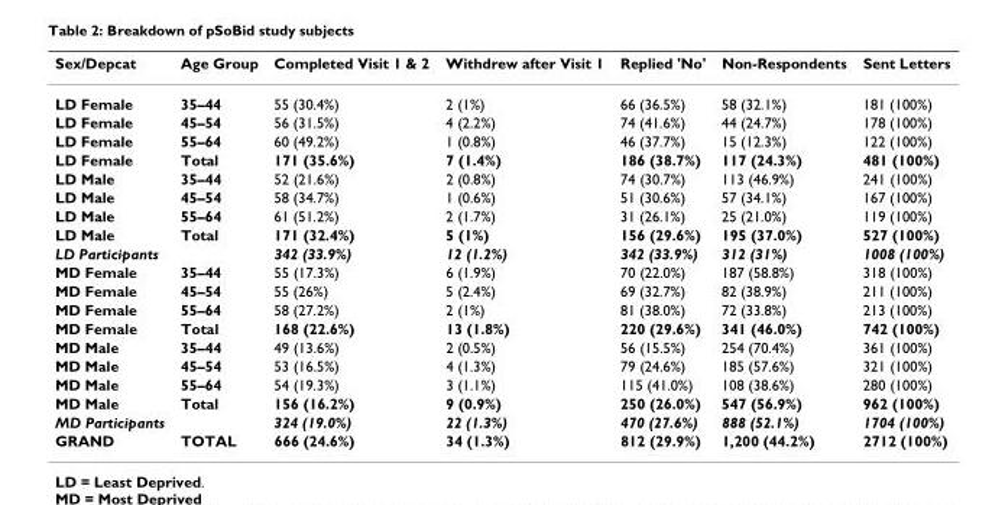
<table><thead><tr><td>Sex/Depcat</td><td>Age Group</td><td>Completed Visit 1 &amp; 2</td><td>Withdrew after Visit 1</td><td>Replied &#x27;No&#x27;</td><td>Non-Respondents</td><td>Sent Letters</td></tr></thead><tbody><tr><td>LD Female</td><td>35–44</td><td>55 (30.4%)</td><td>2 (1%)</td><td>66 (36.5%)</td><td>58 (32.1%)</td><td>181 (100%)</td></tr><tr><td>LD Female</td><td>45–54</td><td>56 (31.5%)</td><td>4 (2.2%)</td><td>74 (41.6%)</td><td>44 (24.7%)</td><td>178 (100%)</td></tr><tr><td>LD Female</td><td>55–64</td><td>60 (49.2%)</td><td>1 (0.8%)</td><td>46 (37.7%)</td><td>15 (12.3%)</td><td>122 (100%)</td></tr><tr><td>LD Female</td><td>Total</td><td>171 (35.6%)</td><td>7 (1.4%)</td><td>186 (38.7%)</td><td>117 (24.3%)</td><td>481 (100%)</td></tr><tr><td>LD Male</td><td>35–44</td><td>52 (21.6%)</td><td>2 (0.8%)</td><td>74 (30.7%)</td><td>113 (46.9%)</td><td>241 (100%)</td></tr><tr><td>LD Male</td><td>45–54</td><td>58 (34.7%)</td><td>1 (0.6%)</td><td>51 (30.6%)</td><td>57 (34.1%)</td><td>167 (100%)</td></tr><tr><td>LD Male</td><td>55–64</td><td>61 (51.2%)</td><td>2 (1.7%)</td><td>31 (26.1%)</td><td>25 (21.0%)</td><td>119 (100%)</td></tr><tr><td>LD Male</td><td>Total</td><td>171 (32.4%)</td><td>5 (1%)</td><td>156 (29.6%)</td><td>195 (37.0%)</td><td>527 (100%)</td></tr><tr><td>LD Participants</td><td></td><td>342 (33.9%)</td><td>12 (1.2%)</td><td>342 (33.9%)</td><td>312 (31%)</td><td>1008 (100%)</td></tr><tr><td>MD Female</td><td>35–44</td><td>55 (17.3%)</td><td>6 (1.9%)</td><td>70 (22.0%)</td><td>187 (58.8%)</td><td>318 (100%)</td></tr><tr><td>MD Female</td><td>45–54</td><td>55 (26%)</td><td>5 (2.4%)</td><td>69 (32.7%)</td><td>82 (38.9%)</td><td>211 (100%)</td></tr><tr><td>MD Female</td><td>55–64</td><td>58 (27.2%)</td><td>2 (1%)</td><td>81 (38.0%)</td><td>72 (33.8%)</td><td>213 (100%)</td></tr><tr><td>MD Female</td><td>Total</td><td>168 (22.6%)</td><td>13 (1.8%)</td><td>220 (29.6%)</td><td>341 (46.0%)</td><td>742 (100%)</td></tr><tr><td>MD Male</td><td>35–44</td><td>49 (13.6%)</td><td>2 (0.5%)</td><td>56 (15.5%)</td><td>254 (70.4%)</td><td>361 (100%)</td></tr><tr><td>MD Male</td><td>45–54</td><td>53 (16.5%)</td><td>4 (1.3%)</td><td>79 (24.6%)</td><td>185 (57.6%)</td><td>321 (100%)</td></tr><tr><td>MD Male</td><td>55–64</td><td>54 (19.3%)</td><td>3 (1.1%)</td><td>115 (41.0%)</td><td>108 (38.6%)</td><td>280 (100%)</td></tr><tr><td>MD Male</td><td>Total</td><td>156 (16.2%)</td><td>9 (0.9%)</td><td>250 (26.0%)</td><td>547 (56.9%)</td><td>962 (100%)</td></tr><tr><td>MD Participants</td><td></td><td>324 (19.0%)</td><td>22 (1.3%)</td><td>470 (27.6%)</td><td>888 (52.1%)</td><td>1704 (100%)</td></tr><tr><td>GRAND</td><td>TOTAL</td><td>666 (24.6%)</td><td>34 (1.3%)</td><td>812 (29.9%)</td><td>1,200 (44.2%)</td><td>2712 (100%)</td></tr></tbody></table>